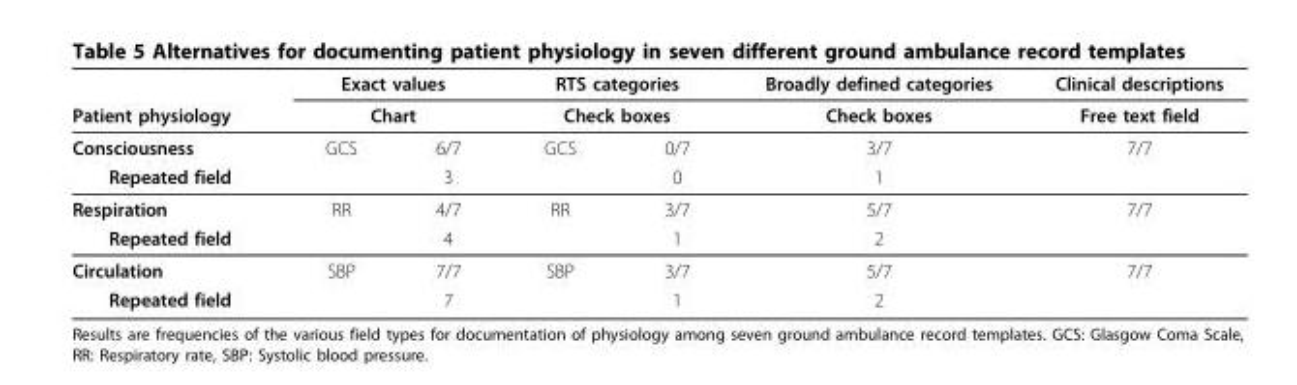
<table><thead><tr><td rowspan="3">Patient physiology Consciousness</td><td rowspan="2" colspan="2">Exact values Chart</td><td rowspan="2" colspan="2">RTS categories Check boxes</td><td rowspan="3">Broadly defined categories Check boxes 3/7</td><td rowspan="3">Clinical descriptions Free text field 7/7</td></tr><tr></tr><tr><td>GCS</td><td>6/7</td><td>GCS</td><td>0/7</td></tr></thead><tbody><tr><td>Repeated field</td><td></td><td>3</td><td></td><td>0</td><td>1</td><td></td></tr><tr><td>Respiration</td><td>RR</td><td>4/7</td><td>RR</td><td>3/7</td><td>5/7</td><td>7/7</td></tr><tr><td>Repeated field</td><td></td><td>4</td><td></td><td>1</td><td>2</td><td></td></tr><tr><td>Circulation</td><td>SBP</td><td>7/7</td><td>SBP</td><td>3/7</td><td>5/7</td><td>7/7</td></tr><tr><td>Repeated field</td><td></td><td>7</td><td></td><td>1</td><td>2</td><td></td></tr></tbody></table>